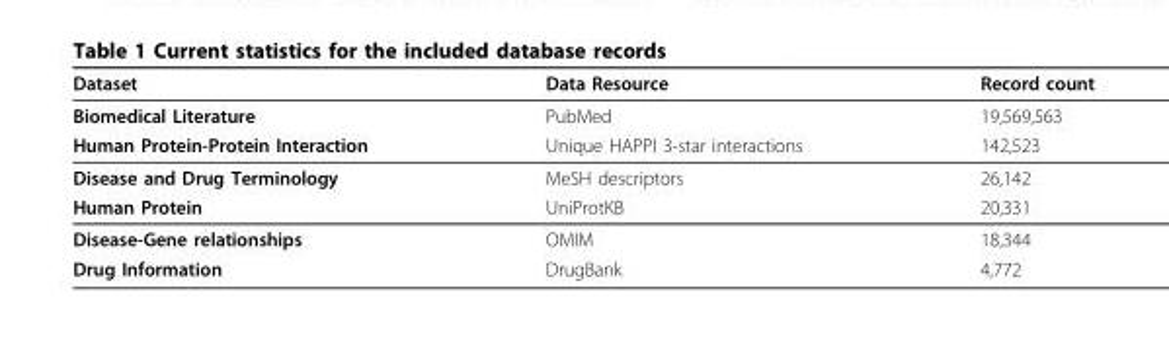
<table><thead><tr><td>Dataset</td><td>Data Resource</td><td>Record count</td></tr></thead><tbody><tr><td>Biomedical Literature</td><td>PubMed</td><td>19,569,563</td></tr><tr><td>Human Protein-Protein Interaction</td><td>Unique HAPPI 3-star interactions</td><td>142,523</td></tr><tr><td>Disease and Drug Terminology</td><td>MeSH descriptors</td><td>26,142</td></tr><tr><td>Human Protein</td><td>UniProtKB</td><td>20,331</td></tr><tr><td>Disease-Gene relationships</td><td>OMIM</td><td>18,344</td></tr><tr><td>Drug Information</td><td>DrugBank</td><td>4,772</td></tr></tbody></table>